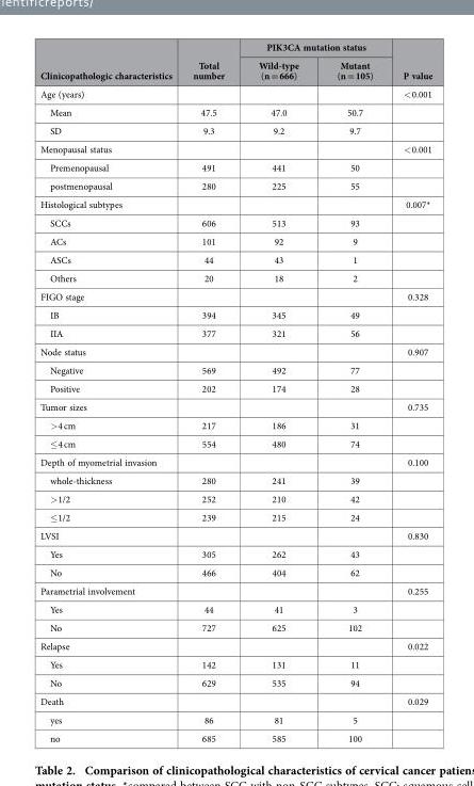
<table><thead><tr><td rowspan="2">Clinicopathologic characteristics</td><td rowspan="2">Total number</td><td colspan="2">PIK3CA mutation status</td><td rowspan="2">P value</td></tr><tr><td>Wild-type (n = 666)</td><td>Mutant (n = 105)</td></tr></thead><tbody><tr><td>Age (years)</td><td></td><td></td><td></td><td>&lt; 0.001</td></tr><tr><td>Mean</td><td>47.5</td><td>47.0</td><td>50.7</td><td></td></tr><tr><td>SD</td><td>9.3</td><td>9.2</td><td>9.7</td><td></td></tr><tr><td>Menopausal status</td><td></td><td></td><td></td><td>&lt; 0.001</td></tr><tr><td>Premenopausal</td><td>491</td><td>441</td><td>50</td><td></td></tr><tr><td>postmenopausal</td><td>280</td><td>225</td><td>55</td><td></td></tr><tr><td>Histological subtypes</td><td></td><td></td><td></td><td>0.007*</td></tr><tr><td>SCCs</td><td>606</td><td>513</td><td>93</td><td></td></tr><tr><td>ACs</td><td>101</td><td>92</td><td>9</td><td></td></tr><tr><td>ASCs</td><td>44</td><td>43</td><td>1</td><td></td></tr><tr><td>Others</td><td>20</td><td>18</td><td>2</td><td></td></tr><tr><td>FIGO stage</td><td></td><td></td><td></td><td>0.328</td></tr><tr><td>IB</td><td>394</td><td>345</td><td>49</td><td></td></tr><tr><td>IIA</td><td>377</td><td>321</td><td>56</td><td></td></tr><tr><td>Node status</td><td></td><td></td><td></td><td>0.907</td></tr><tr><td>Negative</td><td>569</td><td>492</td><td>77</td><td></td></tr><tr><td>Positive</td><td>202</td><td>174</td><td>28</td><td></td></tr><tr><td>Tumor sizes</td><td></td><td></td><td></td><td>0.735</td></tr><tr><td>&gt; 4 cm</td><td>217</td><td>186</td><td>31</td><td></td></tr><tr><td>≤ 4 cm</td><td>554</td><td>480</td><td>74</td><td></td></tr><tr><td>Depth of myometrial invasion</td><td></td><td></td><td></td><td>0.100</td></tr><tr><td>whole-thickness</td><td>280</td><td>241</td><td>39</td><td></td></tr><tr><td>&gt; 1/2</td><td>252</td><td>210</td><td>42</td><td></td></tr><tr><td>≤ 1/2</td><td>239</td><td>215</td><td>24</td><td></td></tr><tr><td>LVSI</td><td></td><td></td><td></td><td>0.830</td></tr><tr><td>Yes</td><td>305</td><td>262</td><td>43</td><td></td></tr><tr><td>No</td><td>466</td><td>404</td><td>62</td><td></td></tr><tr><td>Parametrial involvement</td><td></td><td></td><td></td><td>0.255</td></tr><tr><td>Yes</td><td>44</td><td>41</td><td>3</td><td></td></tr><tr><td>No</td><td>727</td><td>625</td><td>102</td><td></td></tr><tr><td>Relapse</td><td></td><td></td><td></td><td>0.022</td></tr><tr><td>Yes</td><td>142</td><td>131</td><td>11</td><td></td></tr><tr><td>No</td><td>629</td><td>535</td><td>94</td><td></td></tr><tr><td>Death</td><td></td><td></td><td></td><td>0.029</td></tr><tr><td>yes</td><td>86</td><td>81</td><td>5</td><td></td></tr><tr><td>no</td><td>685</td><td>585</td><td>100</td><td></td></tr></tbody></table>